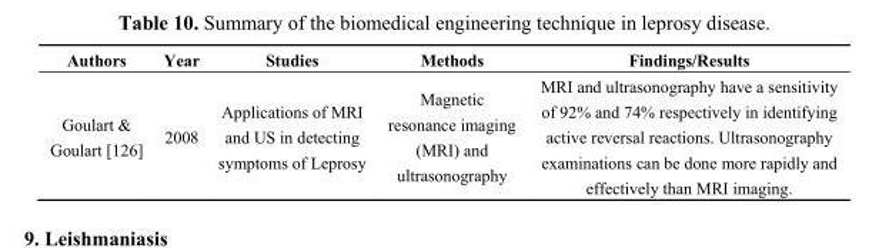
<table><thead><tr><td>Authors</td><td>Year</td><td>Studies</td><td>Methods</td><td>Findings/Results</td></tr></thead><tbody><tr><td>Goulart &amp; Goulart [126]</td><td>2008</td><td>Applications of MRI and US in detecting symptoms of Leprosy</td><td>Magnetic resonance imaging (MRI) and ultrasonography</td><td>MRI and ultrasonography have a sensitivity of 92% and 74% respectively in identifying active reversal reactions. Ultrasonography examinations can be done more rapidly and effectively than MRI imaging.</td></tr></tbody></table>